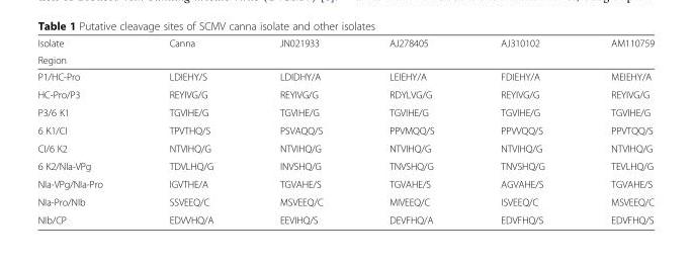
<table><thead><tr><td rowspan="2">Isolate Region</td><td rowspan="2">Canna</td><td rowspan="2">JN021933</td><td rowspan="2">AJ278405</td><td rowspan="2">AJ310102</td><td rowspan="2">AM110759</td></tr><tr></tr></thead><tbody><tr><td>P1/HC-Pro</td><td>LDIEHY/S</td><td>LDIDHY/A</td><td>LEIEHY/A</td><td>FDIEHY/A</td><td>MEIEHY/A</td></tr><tr><td>HC-Pro/P3</td><td>REYIVG/G</td><td>REYIVG/G</td><td>RDYLVG/G</td><td>REYIVG/G</td><td>REYIVG/G</td></tr><tr><td>P3/6 K1</td><td>TGVIHE/G</td><td>TGVIHE/G</td><td>TGVIHE/G</td><td>TGVIHE/G</td><td>TGVIHE/G</td></tr><tr><td>6 K1/CI</td><td>TPVTHQ/S</td><td>PSVAQQ/S</td><td>PPVMQQ/S</td><td>PPVVQQ/S</td><td>PPVTQQ/S</td></tr><tr><td>CI/6 K2</td><td>NTVIHQ/G</td><td>NTVIHQ/G</td><td>NTVIHQ/G</td><td>NTVIHQ/G</td><td>NTVIHQ/G</td></tr><tr><td>6 K2/NIa-VPg</td><td>TDVLHQ/G</td><td>INVSHQ/G</td><td>TNVSHQ/G</td><td>TNVSHQ/G</td><td>TEVLHQ/G</td></tr><tr><td>NIa-VPg/NIa-Pro</td><td>IGVTHE/A</td><td>TGVAHE/S</td><td>TGVAHE/S</td><td>AGVAHE/S</td><td>TGVAHE/S</td></tr><tr><td>NIa-Pro/NIb</td><td>SSVEEQ/C</td><td>MSVEEQ/C</td><td>MIVEEQ/C</td><td>ISVEEQ/C</td><td>MSVEEQ/C</td></tr><tr><td>NIb/CP</td><td>EDVVHQ/A</td><td>EEVIHQ/S</td><td>DEVFHQ/A</td><td>EDVFHQ/S</td><td>EDVFHQ/S</td></tr></tbody></table>